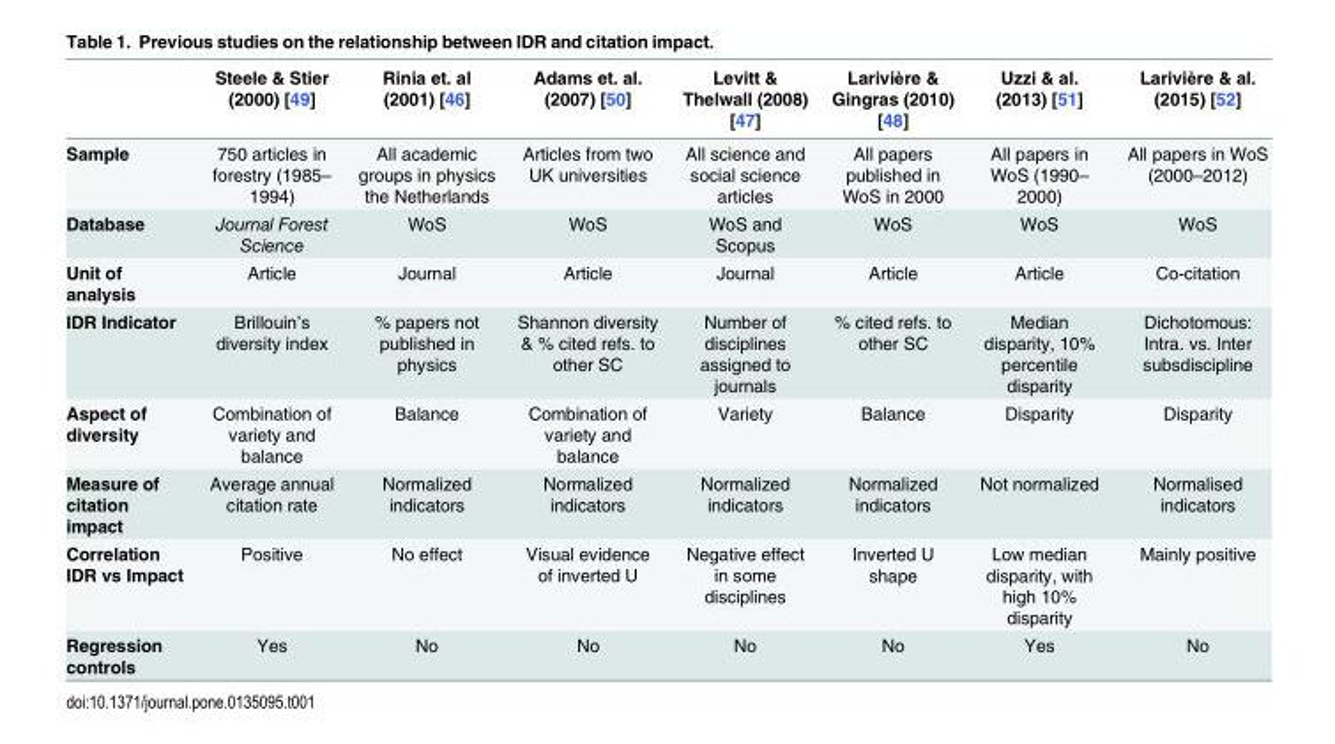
<table><thead><tr><td></td><td>Steele &amp; Stier (2000) [49]</td><td>Rinia et. al (2001) [46]</td><td>Adams et. al. (2007) [50]</td><td>Levitt &amp; Thelwall (2008) [47]</td><td>Larivière &amp; Gingras (2010) [48]</td><td>Uzzi &amp; al. (2013) [51]</td><td>Larivière &amp; al. (2015) [52]</td></tr></thead><tbody><tr><td>Sample</td><td>750 articles in forestry (1985– 1994)</td><td>All academic groups in physics the Netherlands</td><td>Articles from two UK universities</td><td>All science and social science articles</td><td>All papers published in WoS in 2000</td><td>All papers in WoS (1990– 2000)</td><td>All papers in WoS (2000–2012)</td></tr><tr><td>Database</td><td>Journal Forest Science</td><td>WoS</td><td>WoS</td><td>WoS and Scopus</td><td>WoS</td><td>WoS</td><td>WoS</td></tr><tr><td>Unit of analysis</td><td>Article</td><td>Journal</td><td>Article</td><td>Journal</td><td>Article</td><td>Article</td><td>Co-citation</td></tr><tr><td>IDR Indicator</td><td>Brillouin’s diversity index</td><td>% papers not published in physics</td><td>Shannon diversity &amp; % cited refs. to other SC</td><td>Number of disciplines assigned to journals</td><td>% cited refs. to other SC</td><td>Median disparity, 10% percentile disparity</td><td>Dichotomous: Intra. vs. Inter subsdiscipline</td></tr><tr><td>Aspect of diversity</td><td>Combination of variety and balance</td><td>Balance</td><td>Combination of variety and balance</td><td>Variety</td><td>Balance</td><td>Disparity</td><td>Disparity</td></tr><tr><td>Measure of citation impact</td><td>Average annual citation rate</td><td>Normalized indicators</td><td>Normalized indicators</td><td>Normalized indicators</td><td>Normalized indicators</td><td>Not normalized</td><td>Normalised indicators</td></tr><tr><td>Correlation IDR vs Impact</td><td>Positive</td><td>No effect</td><td>Visual evidence of inverted U</td><td>Negative effect in some disciplines</td><td>Inverted U shape</td><td>Low median disparity, with high 10% disparity</td><td>Mainly positive</td></tr><tr><td>Regression controls</td><td>Yes</td><td>No</td><td>No</td><td>No</td><td>No</td><td>Yes</td><td>No</td></tr></tbody></table>